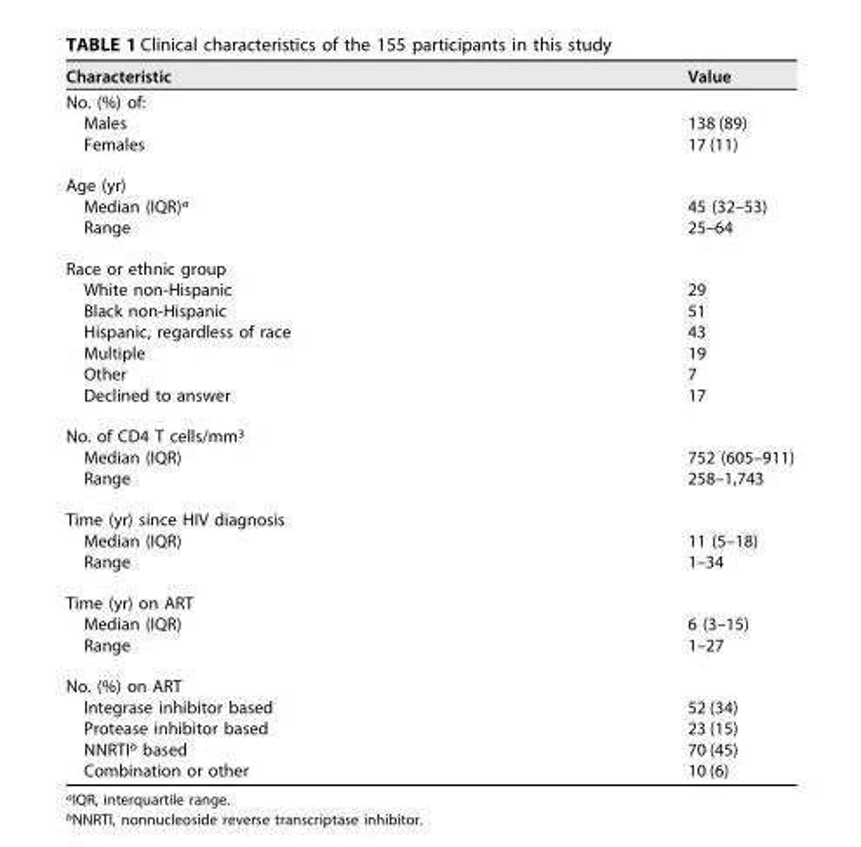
<table><thead><tr><td>Characteristic</td><td>Value</td></tr></thead><tbody><tr><td colspan="2">No. (%) of:</td></tr><tr><td>Males</td><td>138 (89)</td></tr><tr><td>Females</td><td>17 (11)</td></tr><tr><td colspan="2">Age (yr)</td></tr><tr><td>Median (IQR)<sup>a</sup></td><td>45 (32–53)</td></tr><tr><td>Range</td><td>25–64</td></tr><tr><td colspan="2">Race or ethnic group</td></tr><tr><td>White non-Hispanic</td><td>29</td></tr><tr><td>Black non-Hispanic</td><td>51</td></tr><tr><td>Hispanic, regardless of race</td><td>43</td></tr><tr><td>Multiple</td><td>19</td></tr><tr><td>Other</td><td>7</td></tr><tr><td>Declined to answer</td><td>17</td></tr><tr><td colspan="2">No. of CD4 T cells/mm<sup>3</sup></td></tr><tr><td>Median (IQR)</td><td>752 (605–911)</td></tr><tr><td>Range</td><td>258–1,743</td></tr><tr><td colspan="2">Time (yr) since HIV diagnosis</td></tr><tr><td>Median (IQR)</td><td>11 (5–18)</td></tr><tr><td>Range</td><td>1–34</td></tr><tr><td colspan="2">Time (yr) on ART</td></tr><tr><td>Median (IQR)</td><td>6 (3–15)</td></tr><tr><td>Range</td><td>1–27</td></tr><tr><td colspan="2">No. (%) on ART</td></tr><tr><td>Integrase inhibitor based</td><td>52 (34)</td></tr><tr><td>Protease inhibitor based</td><td>23 (15)</td></tr><tr><td>NNRTI<sup>b</sup> based</td><td>70 (45)</td></tr><tr><td>Combination or other</td><td>10 (6)</td></tr></tbody></table>